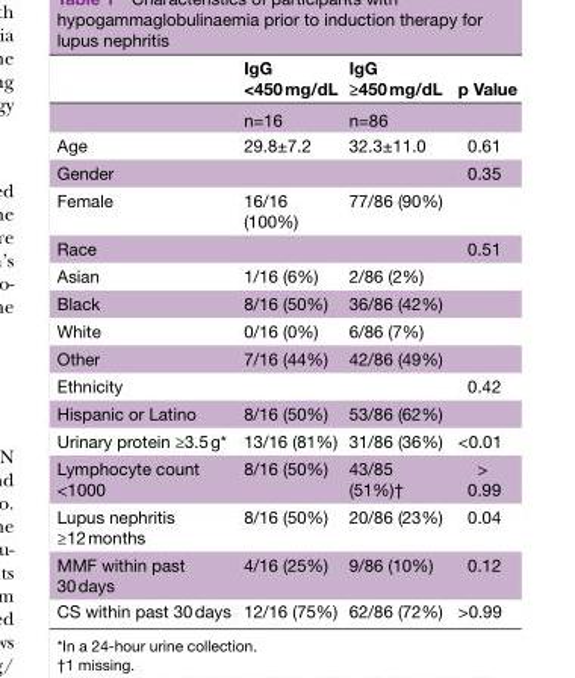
<table><thead><tr><td></td><td>IgG &lt;450 mg/dL</td><td>IgG ≥450 mg/dL</td><td>p Value</td></tr></thead><tbody><tr><td></td><td>n=16</td><td>n=86</td><td></td></tr><tr><td>Age</td><td>29.8±7.2</td><td>32.3±11.0</td><td>0.61</td></tr><tr><td>Gender</td><td></td><td></td><td>0.35</td></tr><tr><td>Female</td><td>16/16 (100%)</td><td>77/86 (90%)</td><td></td></tr><tr><td>Race</td><td></td><td></td><td>0.51</td></tr><tr><td>Asian</td><td>1/16 (6%)</td><td>2/86 (2%)</td><td></td></tr><tr><td>Black</td><td>8/16 (50%)</td><td>36/86 (42%)</td><td></td></tr><tr><td>White</td><td>0/16 (0%)</td><td>6/86 (7%)</td><td></td></tr><tr><td>Other</td><td>7/16 (44%)</td><td>42/86 (49%)</td><td></td></tr><tr><td>Ethnicity</td><td></td><td></td><td>0.42</td></tr><tr><td>Hispanic or Latino</td><td>8/16 (50%)</td><td>53/86 (62%)</td><td></td></tr><tr><td>Urinary protein ≥3.5 g*</td><td>13/16 (81%)</td><td>31/86 (36%)</td><td>&lt;0.01</td></tr><tr><td>Lymphocyte count &lt;1000</td><td>8/16 (50%)</td><td>43/85 (51%)†</td><td>&gt; 0.99</td></tr><tr><td>Lupus nephritis ≥12 months</td><td>8/16 (50%)</td><td>20/86 (23%)</td><td>0.04</td></tr><tr><td>MMF within past 30 days</td><td>4/16 (25%)</td><td>9/86 (10%)</td><td>0.12</td></tr><tr><td>CS within past 30 days</td><td>12/16 (75%)</td><td>62/86 (72%)</td><td>&gt;0.99</td></tr></tbody></table>